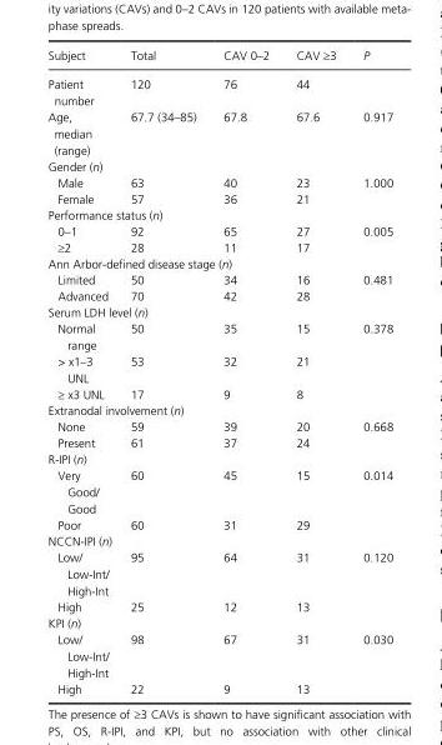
<table><thead><tr><td>Subject</td><td>Total</td><td>CAV 0–2</td><td>CAV ≥3</td><td>P</td></tr></thead><tbody><tr><td>Patient number</td><td>120</td><td>76</td><td>44</td><td></td></tr><tr><td>Age, median (range)</td><td>67.7 (34–85)</td><td>67.8</td><td>67.6</td><td>0.917</td></tr><tr><td colspan="5">Gender (n)</td></tr><tr><td>Male</td><td>63</td><td>40</td><td>23</td><td rowspan="2">1.000</td></tr><tr><td>Female</td><td>57</td><td>36</td><td>21</td></tr><tr><td colspan="5">Performance status (n)</td></tr><tr><td>0–1</td><td>92</td><td>65</td><td>27</td><td rowspan="2">0.005</td></tr><tr><td>≥2</td><td>28</td><td>11</td><td>17</td></tr><tr><td colspan="5">Ann Arbor- defined disease stage (n)</td></tr><tr><td>Limited</td><td>50</td><td>34</td><td>16</td><td rowspan="2">0.481</td></tr><tr><td>Advanced</td><td>70</td><td>42</td><td>28</td></tr><tr><td colspan="5">Serum LDH level (n)</td></tr><tr><td>Normal range</td><td>50</td><td>35</td><td>15</td><td rowspan="3">0.378</td></tr><tr><td>&gt; x1–3 UNL</td><td>53</td><td>32</td><td>21</td></tr><tr><td>≥ x3 UNL</td><td>17</td><td>9</td><td>8</td></tr><tr><td colspan="5">Extranodal involvement (n)</td></tr><tr><td>None</td><td>59</td><td>39</td><td>20</td><td rowspan="2">0.668</td></tr><tr><td>Present</td><td>61</td><td>37</td><td>24</td></tr><tr><td colspan="5">R- IPI (n)</td></tr><tr><td>Very Good/ Good</td><td>60</td><td>45</td><td>15</td><td rowspan="2">0.014</td></tr><tr><td>Poor</td><td>60</td><td>31</td><td>29</td></tr><tr><td colspan="5">NCCN- IPI (n)</td></tr><tr><td>Low/ Low- Int/ High- Int</td><td>95</td><td>64</td><td>31</td><td rowspan="2">0.120</td></tr><tr><td>High</td><td>25</td><td>12</td><td>13</td></tr><tr><td colspan="5">KPI (n)</td></tr><tr><td>Low/ Low- Int/ High- Int</td><td>98</td><td>67</td><td>31</td><td rowspan="2">0.030</td></tr><tr><td>High</td><td>22</td><td>9</td><td>13</td></tr></tbody></table>